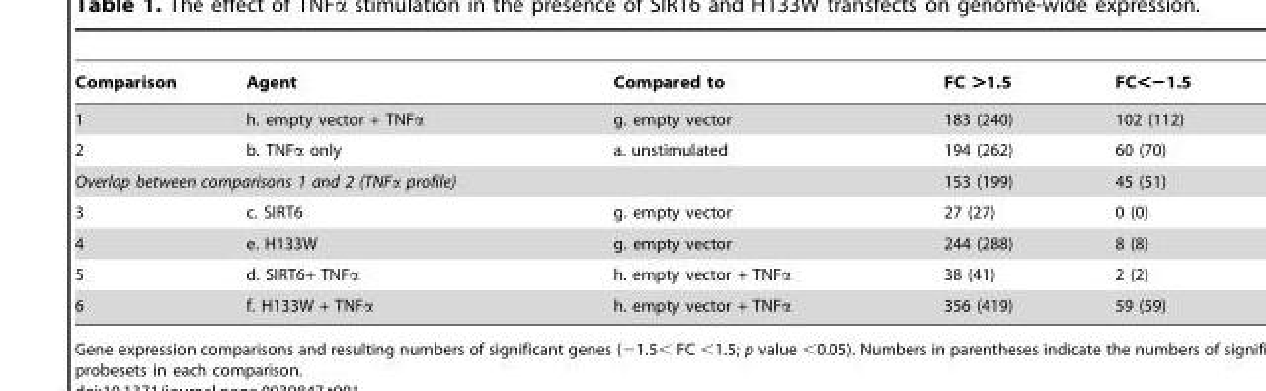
<table><thead><tr><td>Comparison</td><td>Agent</td><td>Compared to</td><td>FC &gt;1.5</td><td>FC&lt;−1.5</td></tr></thead><tbody><tr><td>1</td><td>h. empty vector + TNFα</td><td>g. empty vector</td><td>183 (240)</td><td>102 (112)</td></tr><tr><td>2</td><td>b. TNFα only</td><td>a. unstimulated</td><td>194 (262)</td><td>60 (70)</td></tr><tr><td colspan="3">Overlap between comparisons 1 and 2 (TNFα profile)</td><td>153 (199)</td><td>45 (51)</td></tr><tr><td>3</td><td>c. SIRT6</td><td>g. empty vector</td><td>27 (27)</td><td>0 (0)</td></tr><tr><td>4</td><td>e. H133W</td><td>g. empty vector</td><td>244 (288)</td><td>8 (8)</td></tr><tr><td>5</td><td>d. SIRT6+ TNFα</td><td>h. empty vector + TNFα</td><td>38 (41)</td><td>2 (2)</td></tr><tr><td>6</td><td>f. H133W + TNFα</td><td>h. empty vector + TNFα</td><td>356 (419)</td><td>59 (59)</td></tr></tbody></table>